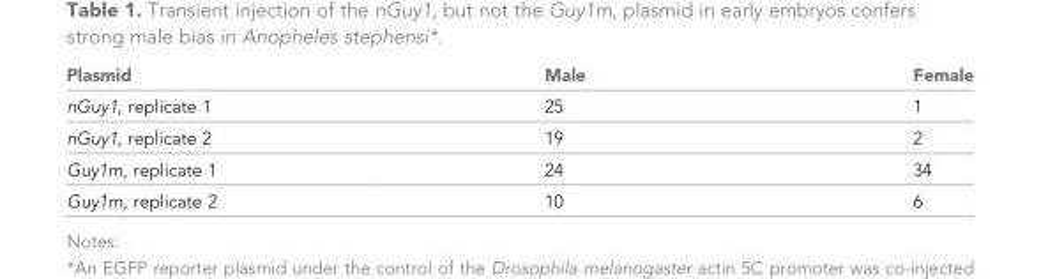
<table><thead><tr><td>Plasmid</td><td>Male</td><td>Female</td></tr></thead><tbody><tr><td>nGuy1, replicate 1</td><td>25</td><td>1</td></tr><tr><td>nGuy1, replicate 2</td><td>19</td><td>2</td></tr><tr><td>Guy1m, replicate 1</td><td>24</td><td>34</td></tr><tr><td>Guy1m, replicate 2</td><td>10</td><td>6</td></tr></tbody></table>